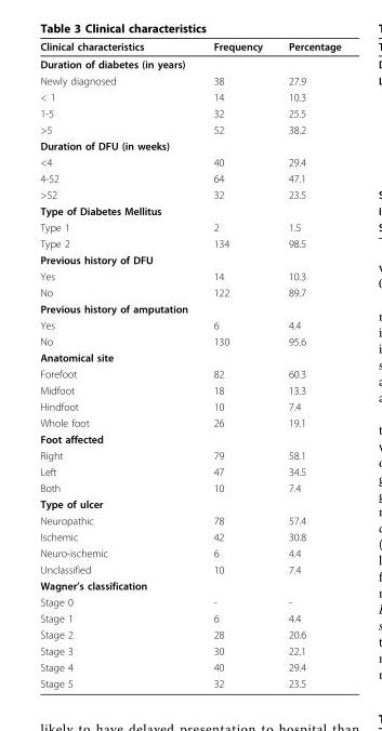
<table><thead><tr><td>Clinical characteristics</td><td>Frequency</td><td>Percentage</td></tr></thead><tbody><tr><td colspan="3">Duration of diabetes (in years)</td></tr><tr><td>Newly diagnosed</td><td>38</td><td>27.9</td></tr><tr><td>&lt; 1</td><td>14</td><td>10.3</td></tr><tr><td>1-5</td><td>32</td><td>25.5</td></tr><tr><td>&gt;5</td><td>52</td><td>38.2</td></tr><tr><td colspan="3">Duration of DFU (in weeks)</td></tr><tr><td>&lt;4</td><td>40</td><td>29.4</td></tr><tr><td>4-52</td><td>64</td><td>47.1</td></tr><tr><td>&gt;52</td><td>32</td><td>23.5</td></tr><tr><td colspan="3">Type of Diabetes Mellitus</td></tr><tr><td>Type 1</td><td>2</td><td>1.5</td></tr><tr><td>Type 2</td><td>134</td><td>98.5</td></tr><tr><td colspan="3">Previous history of DFU</td></tr><tr><td>Yes</td><td>14</td><td>10.3</td></tr><tr><td>No</td><td>122</td><td>89.7</td></tr><tr><td colspan="3">Previous history of amputation</td></tr><tr><td>Yes</td><td>6</td><td>4.4</td></tr><tr><td>No</td><td>130</td><td>95.6</td></tr><tr><td colspan="3">Anatomical site</td></tr><tr><td>Forefoot</td><td>82</td><td>60.3</td></tr><tr><td>Midfoot</td><td>18</td><td>13.3</td></tr><tr><td>Hindfoot</td><td>10</td><td>7.4</td></tr><tr><td>Whole foot</td><td>26</td><td>19.1</td></tr><tr><td colspan="3">Foot affected</td></tr><tr><td>Right</td><td>79</td><td>58.1</td></tr><tr><td>Left</td><td>47</td><td>34.5</td></tr><tr><td>Both</td><td>10</td><td>7.4</td></tr><tr><td colspan="3">Type of ulcer</td></tr><tr><td>Neuropathic</td><td>78</td><td>57.4</td></tr><tr><td>Ischemic</td><td>42</td><td>30.8</td></tr><tr><td>Neuro-ischemic</td><td>6</td><td>4.4</td></tr><tr><td>Unclassified</td><td>10</td><td>7.4</td></tr><tr><td colspan="3">Wagner’s classification</td></tr><tr><td>Stage 0</td><td>-</td><td>-</td></tr><tr><td>Stage 1</td><td>6</td><td>4.4</td></tr><tr><td>Stage 2</td><td>28</td><td>20.6</td></tr><tr><td>Stage 3</td><td>30</td><td>22.1</td></tr><tr><td>Stage 4</td><td>40</td><td>29.4</td></tr><tr><td>Stage 5</td><td>32</td><td>23.5</td></tr></tbody></table>